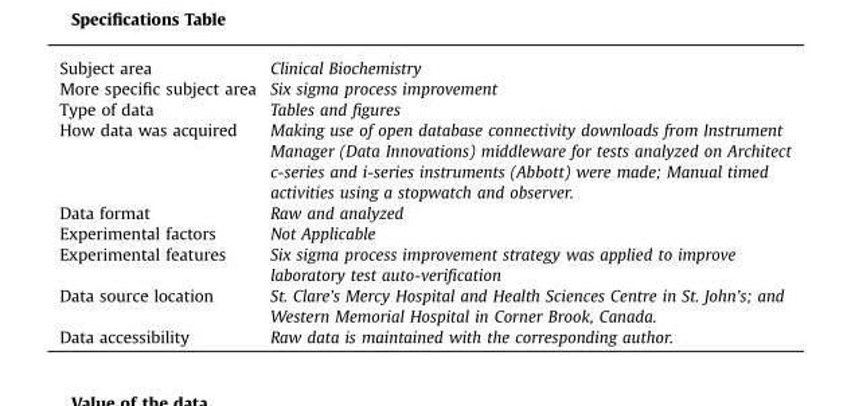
<table><tbody><tr><td>Subject area</td><td>Clinical Biochemistry</td></tr><tr><td>More specific subject area</td><td>Six sigma process improvement</td></tr><tr><td>Type of data</td><td>Tables and figures</td></tr><tr><td>How data was acquired</td><td>Making use of open database connectivity downloads from Instrument Manager (Data Innovations) middleware for tests analyzed on Architect c-series and i-series instruments (Abbott) were made; Manual timed activities using a stopwatch and observer.</td></tr><tr><td>Data format</td><td>Raw and analyzed</td></tr><tr><td>Experimental factors</td><td>Not Applicable</td></tr><tr><td>Experimental features</td><td>Six sigma process improvement strategy was applied to improve laboratory test auto-verification</td></tr><tr><td>Data source location</td><td>St. Clare’s Mercy Hospital and Health Sciences Centre in St. John’s; and Western Memorial Hospital in Corner Brook, Canada.</td></tr><tr><td>Data accessibility</td><td>Raw data is maintained with the corresponding author.</td></tr></tbody></table>